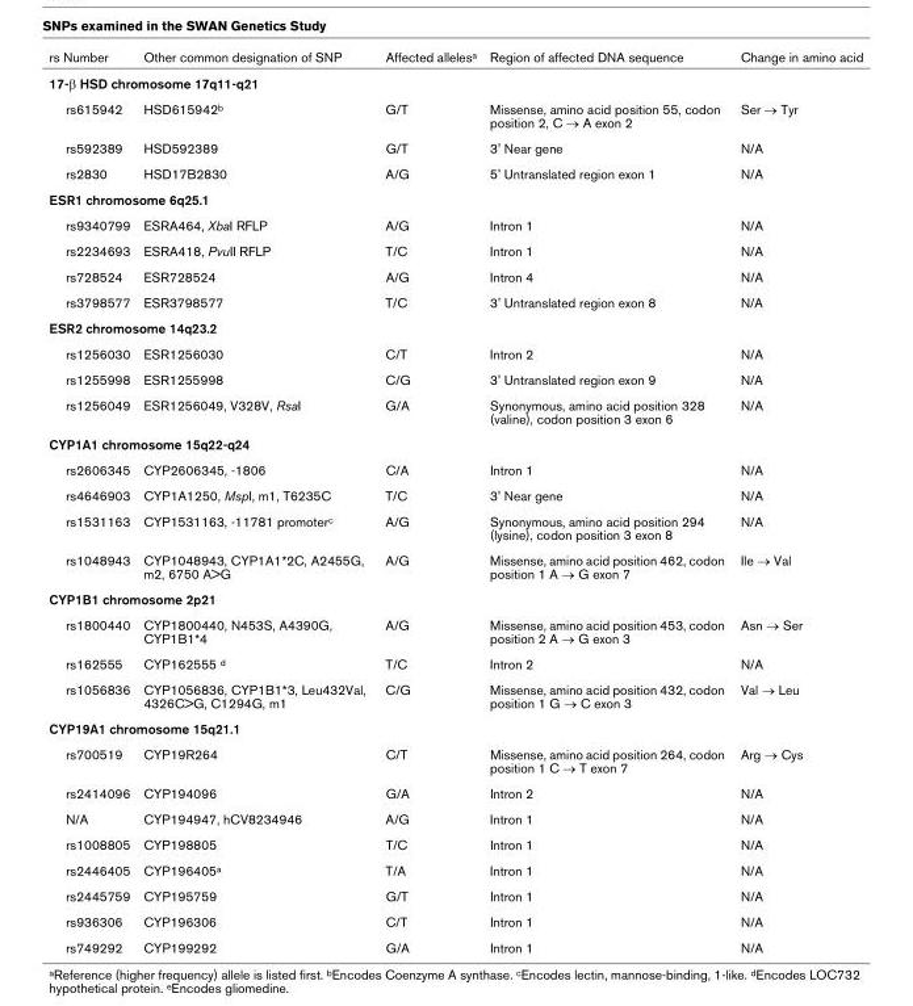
<table><thead><tr><td>rs Number</td><td>Other common designation of SNP</td><td>Affected alleles<sup>a</sup></td><td>Region of affected DNA sequence</td><td>Change in amino acid</td></tr></thead><tbody><tr><td colspan="5">17-β HSD chromosome 17q11-q21</td></tr><tr><td>rs615942</td><td>HSD615942<sup>b</sup></td><td>G/T</td><td>Missense, amino acid position 55, codon position 2, C → A exon 2</td><td>Ser → Tyr</td></tr><tr><td>rs592389</td><td>HSD592389</td><td>G/T</td><td>3&#x27; Near gene</td><td>N/A</td></tr><tr><td>rs2830</td><td>HSD17B2830</td><td>A/G</td><td>5&#x27; Untranslated region exon 1</td><td>N/A</td></tr><tr><td colspan="5">ESR1 chromosome 6q25.1</td></tr><tr><td>rs9340799</td><td>ESRA464, XbaI RFLP</td><td>A/G</td><td>Intron 1</td><td>N/A</td></tr><tr><td>rs2234693</td><td>ESRA418, PvuII RFLP</td><td>T/C</td><td>Intron 1</td><td>N/A</td></tr><tr><td>rs728524</td><td>ESR728524</td><td>A/G</td><td>Intron 4</td><td>N/A</td></tr><tr><td>rs3798577</td><td>ESR3798577</td><td>T/C</td><td>3&#x27; Untranslated region exon 8</td><td>N/A</td></tr><tr><td colspan="5">ESR2 chromosome 14q23.2</td></tr><tr><td>rs1256030</td><td>ESR1256030</td><td>C/T</td><td>Intron 2</td><td>N/A</td></tr><tr><td>rs1255998</td><td>ESR1255998</td><td>C/G</td><td>3&#x27; Untranslated region exon 9</td><td>N/A</td></tr><tr><td>rs1256049</td><td>ESR1256049, V328V, RsaI</td><td>G/A</td><td>Synonymous, amino acid position 328 (valine), codon position 3 exon 6</td><td>N/A</td></tr><tr><td colspan="5">CYP1A1 chromosome 15q22-q24</td></tr><tr><td>rs2606345</td><td>CYP2606345, -1806</td><td>C/A</td><td>Intron 1</td><td>N/A</td></tr><tr><td>rs4646903</td><td>CYP1A1250, MspI, m1, T6235C</td><td>T/C</td><td>3&#x27; Near gene</td><td>N/A</td></tr><tr><td>rs1531163</td><td>CYP1531163, -11781 promoter<sup>c</sup></td><td>A/G</td><td>Synonymous, amino acid position 294 (lysine), codon position 3 exon 8</td><td>N/A</td></tr><tr><td>rs1048943</td><td>CYP1048943, CYP1A1*2C, A2455G, m2, 6750 A&gt;G</td><td>A/G</td><td>Missense, amino acid position 462, codon position 1 A → G exon 7</td><td>Ile → Val</td></tr><tr><td colspan="5">CYP1B1 chromosome 2p21</td></tr><tr><td>rs1800440</td><td>CYP1800440, N453S, A4390G, CYP1B1*4</td><td>A/G</td><td>Missense, amino acid position 453, codon position 2 A → G exon 3</td><td>Asn → Ser</td></tr><tr><td>rs162555</td><td>CYP162555 <sup>d</sup></td><td>T/C</td><td>Intron 2</td><td>N/A</td></tr><tr><td>rs1056836</td><td>CYP1056836, CYP1B1*3, Leu432Val, 4326C&gt;G, C1294G, m1</td><td>C/G</td><td>Missense, amino acid position 432, codon position 1 G → C exon 3</td><td>Val → Leu</td></tr><tr><td colspan="5">CYP19A1 chromosome 15q21.1</td></tr><tr><td>rs700519</td><td>CYP19R264</td><td>C/T</td><td>Missense, amino acid position 264, codon position 1 C → T exon 7</td><td>Arg → Cys</td></tr><tr><td>rs2414096</td><td>CYP194096</td><td>G/A</td><td>Intron 2</td><td>N/A</td></tr><tr><td>N/A</td><td>CYP194947, hCV8234946</td><td>A/G</td><td>Intron 1</td><td>N/A</td></tr><tr><td>rs1008805</td><td>CYP198805</td><td>T/C</td><td>Intron 1</td><td>N/A</td></tr><tr><td>rs2446405</td><td>CYP196405<sup>a</sup></td><td>T/A</td><td>Intron 1</td><td>N/A</td></tr><tr><td>rs2445759</td><td>CYP195759</td><td>G/T</td><td>Intron 1</td><td>N/A</td></tr><tr><td>rs936306</td><td>CYP196306</td><td>C/T</td><td>Intron 1</td><td>N/A</td></tr><tr><td>rs749292</td><td>CYP199292</td><td>G/A</td><td>Intron 1</td><td>N/A</td></tr></tbody></table>